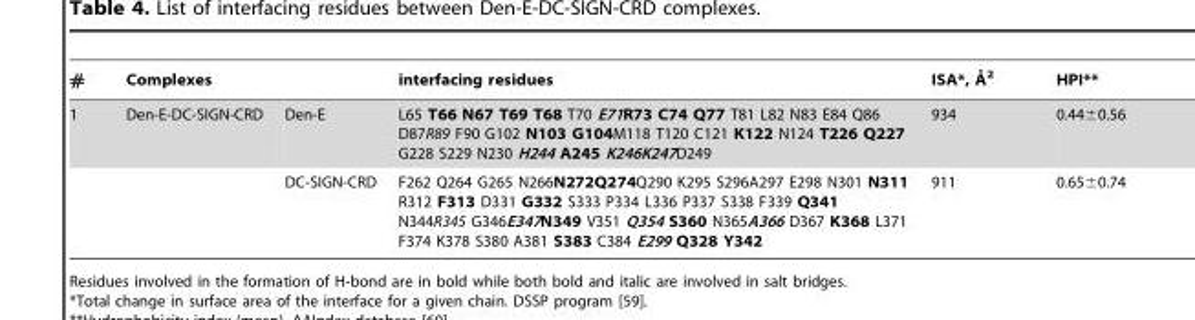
<table><thead><tr><td>#</td><td>Complexes</td><td></td><td>interfacing residues</td><td>ISA*, A˚ 2</td><td>HPI**</td></tr></thead><tbody><tr><td rowspan="2">1</td><td>Den-E-DC-SIGN-CRD</td><td>Den-E</td><td>L65 T66 N67 T69 T68 T70 E71R73 C74 Q77 T81 L82 N83 E84 Q86 D87R89 F90 G102 N103 G104M118 T120 C121 K122 N124 T226 Q227 G228 S229 N230 H244 A245 K246K247D249</td><td>934</td><td>0.44±0.56</td></tr><tr><td></td><td>DC-SIGN-CRD</td><td>F262 Q264 G265 N266N272Q274Q290 K295 S296A297 E298 N301 N311 R312 F313 D331 G332 S333 P334 L336 P337 S338 F339 Q341 N344R345 G346E347N349 V351 Q354 S360 N365A366 D367 K368 L371 F374 K378 S380 A381 S383 C384 E299 Q328 Y342</td><td>911</td><td>0.65±0.74</td></tr></tbody></table>